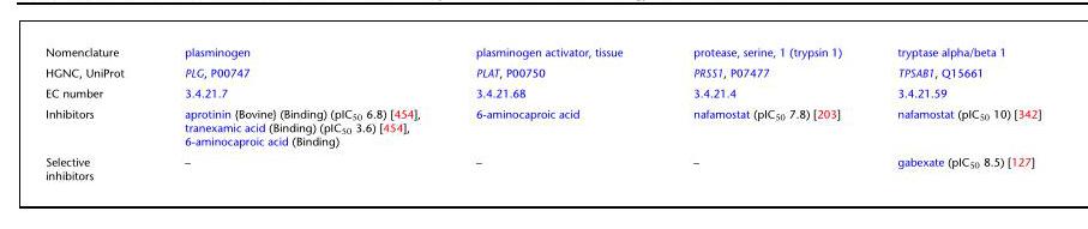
<table><tbody><tr><td>Nomenclature</td><td>plasminogen</td><td>plasminogen activator, tissue</td><td>protease, serine, 1 (trypsin 1)</td><td>tryptase alpha/beta 1</td></tr><tr><td>HGNC, UniProt</td><td>PLG, P00747</td><td>PLAT, P00750</td><td>PRSS1, P07477</td><td>TPSAB1, Q15661</td></tr><tr><td>EC number</td><td>3.4.21.7</td><td>3.4.21.68</td><td>3.4.21.4</td><td>3.4.21.59</td></tr><tr><td>Inhibitors</td><td>aprotinin {Bovine} (Binding) (pIC<sub>50</sub> 6.8) [454], tranexamic acid (Binding) (pIC<sub>50</sub> 3.6) [454], 6-aminocaproic acid (Binding)</td><td>6-aminocaproic acid</td><td>nafamostat (pIC<sub>50</sub> 7.8) [203]</td><td>nafamostat (pIC<sub>50</sub> 10) [342]</td></tr><tr><td>Selective inhibitors</td><td>–</td><td>–</td><td>–</td><td>gabexate (pIC<sub>50</sub> 8.5) [127]</td></tr></tbody></table>